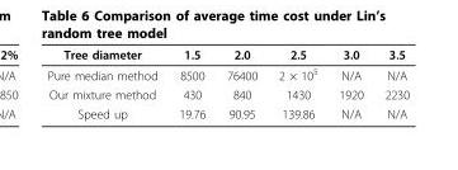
<table><thead><tr><td>Tree diameter</td><td>1.5</td><td>2.0</td><td>2.5</td><td>3.0</td><td>3.5</td></tr></thead><tbody><tr><td>Pure median method</td><td>8500</td><td>76400</td><td>2 × 10<sup>5</sup></td><td>N/A</td><td>N/A</td></tr><tr><td>Our mixture method</td><td>430</td><td>840</td><td>1430</td><td>1920</td><td>2230</td></tr><tr><td>Speed up</td><td>19.76</td><td>90.95</td><td>139.86</td><td>N/A</td><td>N/A</td></tr></tbody></table>